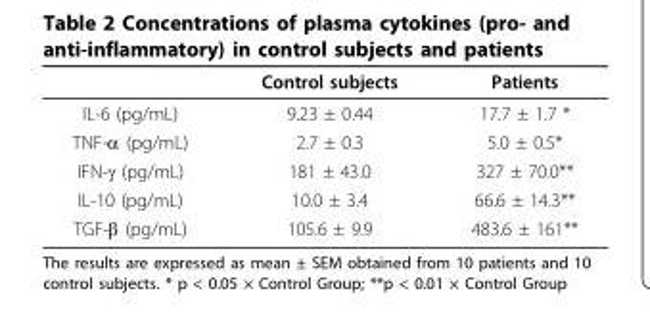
<table><thead><tr><td></td><td>Control subjects</td><td>Patients</td></tr></thead><tbody><tr><td>IL-6 (pg/mL)</td><td>9.23 ± 0.44</td><td>17.7 ± 1.7 *</td></tr><tr><td>TNF-α (pg/mL)</td><td>2.7 ± 0.3</td><td>5.0 ± 0.5*</td></tr><tr><td>IFN-γ (pg/mL)</td><td>181 ± 43.0</td><td>327 ± 70.0**</td></tr><tr><td>IL-10 (pg/mL)</td><td>10.0 ± 3.4</td><td>66.6 ± 14.3**</td></tr><tr><td>TGF-β (pg/mL)</td><td>105.6 ± 9.9</td><td>483.6 ± 161**</td></tr></tbody></table>